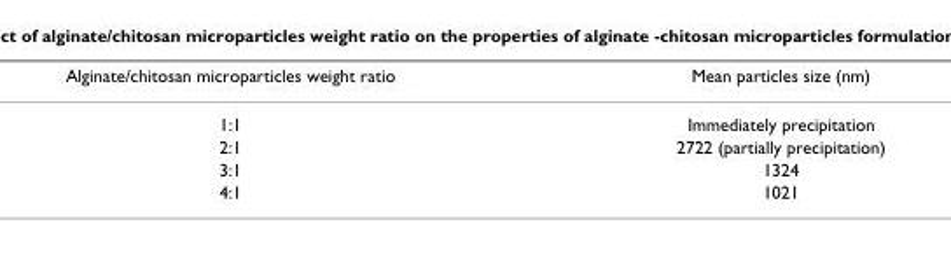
<table><thead><tr><td>Alginate/chitosan microparticles weight ratio</td><td>Mean particles size (nm)</td></tr></thead><tbody><tr><td>1:1</td><td>Immediately precipitation</td></tr><tr><td>2:1</td><td>2722 (partially precipitation)</td></tr><tr><td>3:1</td><td>1324</td></tr><tr><td>4:1</td><td>1021</td></tr></tbody></table>